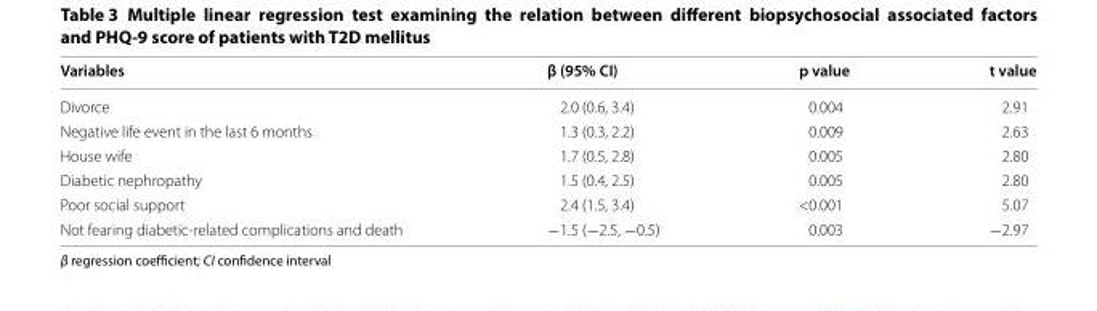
<table><thead><tr><td>Variables</td><td>β (95% CI)</td><td>p value</td><td>t value</td></tr></thead><tbody><tr><td>Divorce</td><td>2.0 (0.6, 3.4)</td><td>0.004</td><td>2.91</td></tr><tr><td>Negative life event in the last 6 months</td><td>1.3 (0.3, 2.2)</td><td>0.009</td><td>2.63</td></tr><tr><td>House wife</td><td>1.7 (0.5, 2.8)</td><td>0.005</td><td>2.80</td></tr><tr><td>Diabetic nephropathy</td><td>1.5 (0.4, 2.5)</td><td>0.005</td><td>2.80</td></tr><tr><td>Poor social support</td><td>2.4 (1.5, 3.4)</td><td>&lt;0.001</td><td>5.07</td></tr><tr><td>Not fearing diabetic-related complications and death</td><td>−1.5 (−2.5, −0.5)</td><td>0.003</td><td>−2.97</td></tr></tbody></table>